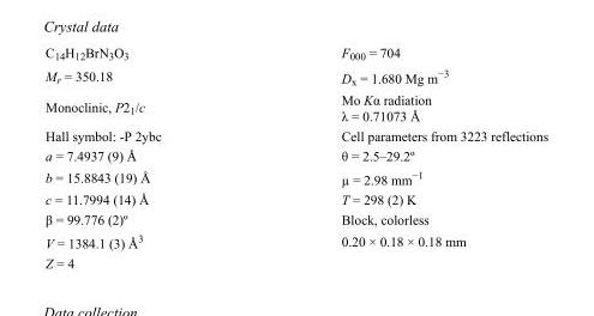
<table><tbody><tr><td>C<sub>14</sub>H<sub>12</sub>BrN<sub>3</sub>O<sub>3</sub></td><td>F000 = 704</td></tr><tr><td>M<sub>r</sub> = 350.18</td><td>D<sub>x</sub> = 1.680 Mg m<sup>−3</sup></td></tr><tr><td>Monoclinic, P2<sub>1</sub>/c</td><td>Mo Kα radiation λ = 0.71073 Å</td></tr><tr><td>Hall symbol: -P 2ybc</td><td>Cell parameters from 3223 reflections</td></tr><tr><td>a = 7.4937 (9) Å</td><td>θ = 2.5–29.2º</td></tr><tr><td>b = 15.8843 (19) Å</td><td>µ = 2.98 mm<sup>−1</sup></td></tr><tr><td>c = 11.7994 (14) Å</td><td>T = 298 (2) K</td></tr><tr><td>β = 99.776 (2)º</td><td>Block, colorless</td></tr><tr><td>V = 1384.1 (3) Å<sup>3</sup></td><td>0.20 × 0.18 × 0.18 mm</td></tr><tr><td>Z = 4</td><td></td></tr></tbody></table>